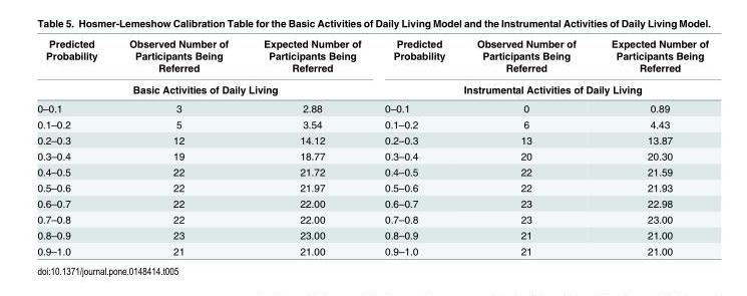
<table><thead><tr><td>Predicted Probability</td><td>Observed Number of Participants Being Referred</td><td>Expected Number of Participants Being Referred</td><td>Predicted Probability</td><td>Observed Number of Participants Being Referred</td><td>Expected Number of Participants Being Referred</td></tr><tr><td colspan="3">Basic Activities of Daily Living</td><td colspan="3">Instrumental Activities of Daily Living</td></tr></thead><tbody><tr><td>0–0.1</td><td>3</td><td>2.88</td><td>0–0.1</td><td>0</td><td>0.89</td></tr><tr><td>0.1–0.2</td><td>5</td><td>3.54</td><td>0.1–0.2</td><td>6</td><td>4.43</td></tr><tr><td>0.2–0.3</td><td>12</td><td>14.12</td><td>0.2–0.3</td><td>13</td><td>13.87</td></tr><tr><td>0.3–0.4</td><td>19</td><td>18.77</td><td>0.3–0.4</td><td>20</td><td>20.30</td></tr><tr><td>0.4–0.5</td><td>22</td><td>21.72</td><td>0.4–0.5</td><td>22</td><td>21.59</td></tr><tr><td>0.5–0.6</td><td>22</td><td>21.97</td><td>0.5–0.6</td><td>22</td><td>21.93</td></tr><tr><td>0.6–0.7</td><td>22</td><td>22.00</td><td>0.6–0.7</td><td>23</td><td>22.98</td></tr><tr><td>0.7–0.8</td><td>22</td><td>22.00</td><td>0.7–0.8</td><td>23</td><td>23.00</td></tr><tr><td>0.8–0.9</td><td>23</td><td>23.00</td><td>0.8–0.9</td><td>21</td><td>21.00</td></tr><tr><td>0.9–1.0</td><td>21</td><td>21.00</td><td>0.9–1.0</td><td>21</td><td>21.00</td></tr></tbody></table>